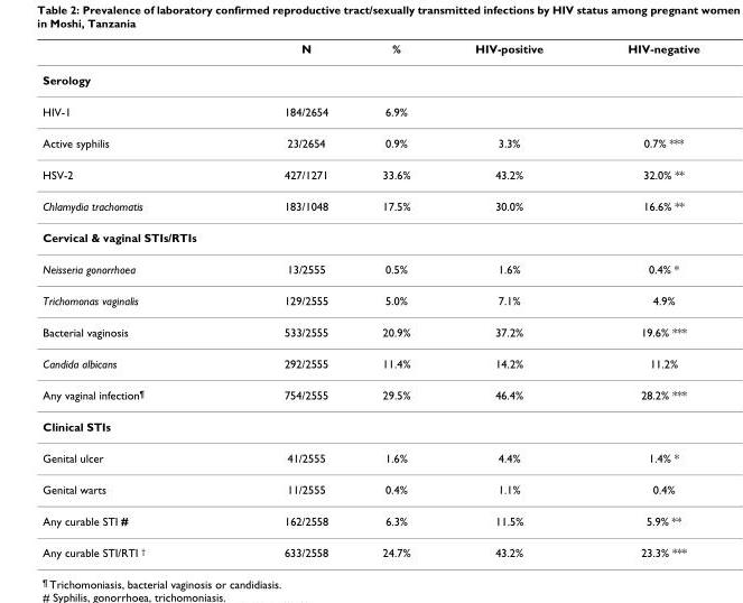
<table><thead><tr><td></td><td>N</td><td>%</td><td>HIV-positive</td><td>HIV-negative</td></tr></thead><tbody><tr><td colspan="5">Serology</td></tr><tr><td>HIV-1</td><td>184/2654</td><td>6.9%</td><td></td><td></td></tr><tr><td>Active syphilis</td><td>23/2654</td><td>0.9%</td><td>3.3%</td><td>0.7% ***</td></tr><tr><td>HSV-2</td><td>427/1271</td><td>33.6%</td><td>43.2%</td><td>32.0% **</td></tr><tr><td>Chlamydia trachomatis</td><td>183/1048</td><td>17.5%</td><td>30.0%</td><td>16.6% **</td></tr><tr><td colspan="5">Cervical &amp; vaginal STIs/RTIs</td></tr><tr><td>Neisseria gonorrhoea</td><td>13/2555</td><td>0.5%</td><td>1.6%</td><td>0.4% *</td></tr><tr><td>Trichomonas vaginalis</td><td>129/2555</td><td>5.0%</td><td>7.1%</td><td>4.9%</td></tr><tr><td>Bacterial vaginosis</td><td>533/2555</td><td>20.9%</td><td>37.2%</td><td>19.6% ***</td></tr><tr><td>Candida albicans</td><td>292/2555</td><td>11.4%</td><td>14.2%</td><td>11.2%</td></tr><tr><td>Any vaginal infection<sup>¶</sup></td><td>754/2555</td><td>29.5%</td><td>46.4%</td><td>28.2% ***</td></tr><tr><td colspan="5">Clinical STIs</td></tr><tr><td>Genital ulcer</td><td>41/2555</td><td>1.6%</td><td>4.4%</td><td>1.4% *</td></tr><tr><td>Genital warts</td><td>11/2555</td><td>0.4%</td><td>1.1%</td><td>0.4%</td></tr><tr><td>Any curable STI #</td><td>162/2558</td><td>6.3%</td><td>11.5%</td><td>5.9% **</td></tr><tr><td>Any curable STI/RTI <sup>†</sup></td><td>633/2558</td><td>24.7%</td><td>43.2%</td><td>23.3% ***</td></tr></tbody></table>